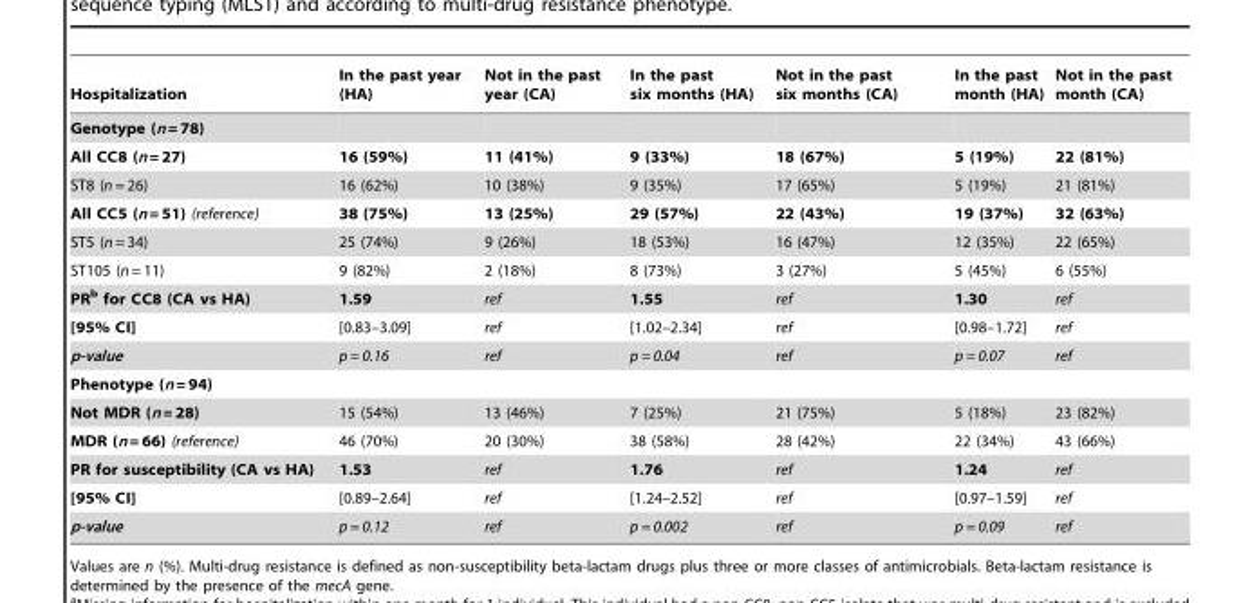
<table><thead><tr><td>Hospitalization</td><td>In the past year (HA)</td><td>Not in the past year (CA)</td><td>In the past six months (HA)</td><td>Not in the past six months (CA)</td><td>In the past month (HA)</td><td>Not in the past month (CA)</td></tr></thead><tbody><tr><td colspan="7">Genotype (n = 78)</td></tr><tr><td>All CC8 (n = 27)</td><td>16 (59%)</td><td>11 (41%)</td><td>9 (33%)</td><td>18 (67%)</td><td>5 (19%)</td><td>22 (81%)</td></tr><tr><td>ST8 (n = 26)</td><td>16 (62%)</td><td>10 (38%)</td><td>9 (35%)</td><td>17 (65%)</td><td>5 (19%)</td><td>21 (81%)</td></tr><tr><td>All CC5 (n = 51) (reference)</td><td>38 (75%)</td><td>13 (25%)</td><td>29 (57%)</td><td>22 (43%)</td><td>19 (37%)</td><td>32 (63%)</td></tr><tr><td>ST5 (n = 34)</td><td>25 (74%)</td><td>9 (26%)</td><td>18 (53%)</td><td>16 (47%)</td><td>12 (35%)</td><td>22 (65%)</td></tr><tr><td>ST105 (n = 11)</td><td>9 (82%)</td><td>2 (18%)</td><td>8 (73%)</td><td>3 (27%)</td><td>5 (45%)</td><td>6 (55%)</td></tr><tr><td>PRb for CC8 (CA vs HA)</td><td>1.59</td><td>ref</td><td>1.55</td><td>ref</td><td>1.30</td><td>ref</td></tr><tr><td>[95% CI]</td><td>[0.83–3.09]</td><td>ref</td><td>[1.02–2.34]</td><td>ref</td><td>[0.98–1.72]</td><td>ref</td></tr><tr><td>p-value</td><td>p = 0.16</td><td>ref</td><td>p = 0.04</td><td>ref</td><td>p = 0.07</td><td>ref</td></tr><tr><td colspan="7">Phenotype (n = 94)</td></tr><tr><td>Not MDR (n = 28)</td><td>15 (54%)</td><td>13 (46%)</td><td>7 (25%)</td><td>21 (75%)</td><td>5 (18%)</td><td>23 (82%)</td></tr><tr><td>MDR (n = 66) (reference)</td><td>46 (70%)</td><td>20 (30%)</td><td>38 (58%)</td><td>28 (42%)</td><td>22 (34%)</td><td>43 (66%)</td></tr><tr><td>PR for susceptibility (CA vs HA)</td><td>1.53</td><td>ref</td><td>1.76</td><td>ref</td><td>1.24</td><td>ref</td></tr><tr><td>[95% CI]</td><td>[0.89–2.64]</td><td>ref</td><td>[1.24–2.52]</td><td>ref</td><td>[0.97–1.59]</td><td>ref</td></tr><tr><td>p-value</td><td>p = 0.12</td><td>ref</td><td>p = 0.002</td><td>ref</td><td>p = 0.09</td><td>ref</td></tr></tbody></table>